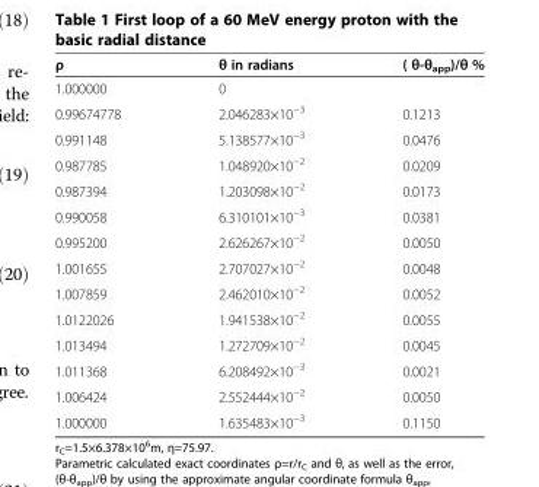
<table><thead><tr><td>ρ</td><td>θ in radians</td><td>( θ-θ<sub>app</sub>)/θ %</td></tr></thead><tbody><tr><td>1.000000</td><td>0</td><td></td></tr><tr><td>0.99674778</td><td>2.046283×10<sup>−3</sup></td><td>0.1213</td></tr><tr><td>0.991148</td><td>5.138577×10<sup>−3</sup></td><td>0.0476</td></tr><tr><td>0.987785</td><td>1.048920×10<sup>−2</sup></td><td>0.0209</td></tr><tr><td>0.987394</td><td>1.203098×10<sup>−2</sup></td><td>0.0173</td></tr><tr><td>0.990058</td><td>6.310101×10<sup>−3</sup></td><td>0.0381</td></tr><tr><td>0.995200</td><td>2.626267×10<sup>−2</sup></td><td>0.0050</td></tr><tr><td>1.001655</td><td>2.707027×10<sup>−2</sup></td><td>0.0048</td></tr><tr><td>1.007859</td><td>2.462010×10<sup>−2</sup></td><td>0.0052</td></tr><tr><td>1.0122026</td><td>1.941538×10<sup>−2</sup></td><td>0.0055</td></tr><tr><td>1.013494</td><td>1.272709×10<sup>−2</sup></td><td>0.0045</td></tr><tr><td>1.011368</td><td>6.208492×10<sup>−3</sup></td><td>0.0021</td></tr><tr><td>1.006424</td><td>2.552444×10<sup>−2</sup></td><td>0.0050</td></tr><tr><td>1.000000</td><td>1.635483×10<sup>−3</sup></td><td>0.1150</td></tr></tbody></table>